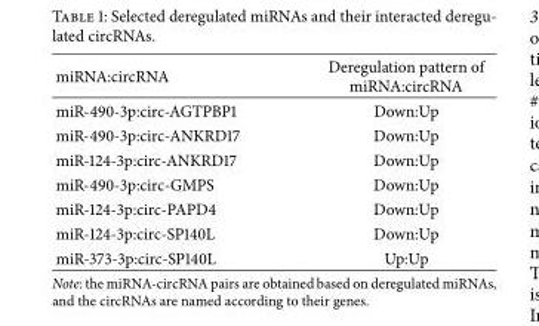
<table><thead><tr><td>miRNA:circRNA</td><td>Deregulation pattern of miRNA:circRNA</td></tr></thead><tbody><tr><td>miR-490-3p:circ-AGTPBP1</td><td>Down:Up</td></tr><tr><td>miR-490-3p:circ-ANKRD17</td><td>Down:Up</td></tr><tr><td>miR-124-3p:circ-ANKRD17</td><td>Down:Up</td></tr><tr><td>miR-490-3p:circ-GMPS</td><td>Down:Up</td></tr><tr><td>miR-124-3p:circ-PAPD4</td><td>Down:Up</td></tr><tr><td>miR-124-3p:circ-SP140L</td><td>Down:Up</td></tr><tr><td>miR-373-3p:circ-SP140L</td><td>Up:Up</td></tr></tbody></table>